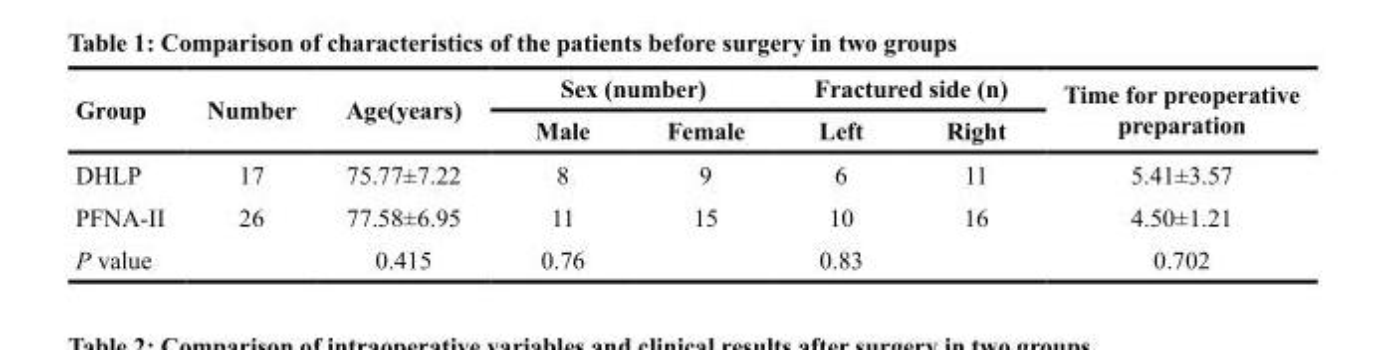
<table><thead><tr><td rowspan="2">Group</td><td rowspan="2">Number</td><td rowspan="2">Age(years)</td><td colspan="2">Sex (number)</td><td colspan="2">Fractured side (n)</td><td rowspan="2">Time for preoperative preparation</td></tr><tr><td>Male</td><td>Female</td><td>Left</td><td>Right</td></tr></thead><tbody><tr><td>DHLP</td><td>17</td><td>75.77±7.22</td><td>8</td><td>9</td><td>6</td><td>11</td><td>5.41±3.57</td></tr><tr><td>PFNA-II</td><td>26</td><td>77.58±6.95</td><td>11</td><td>15</td><td>10</td><td>16</td><td>4.50±1.21</td></tr><tr><td>P value</td><td></td><td>0.415</td><td>0.76</td><td></td><td>0.83</td><td></td><td>0.702</td></tr></tbody></table>